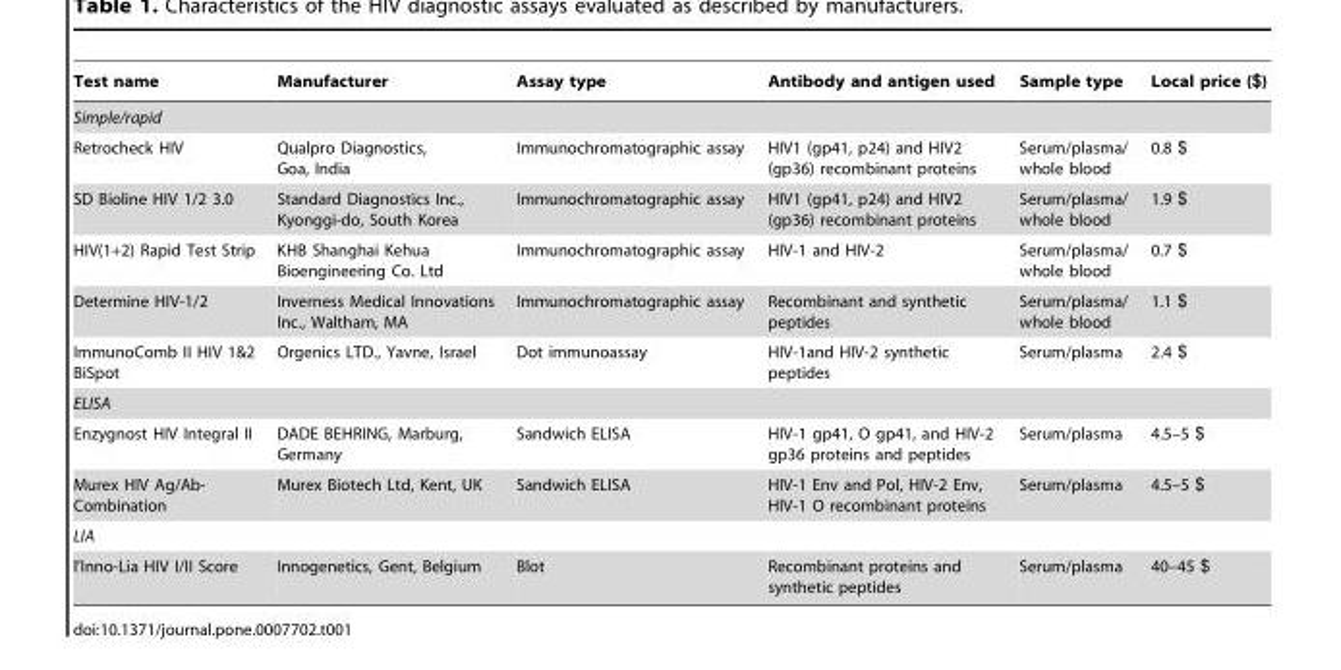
<table><thead><tr><td>Test name</td><td>Manufacturer</td><td>Assay type</td><td>Antibody and antigen used</td><td>Sample type</td><td>Local price ($)</td></tr></thead><tbody><tr><td colspan="6">Simple/rapid</td></tr><tr><td>Retrocheck HIV</td><td>Qualpro Diagnostics, Goa, India</td><td>Immunochromatographic assay</td><td>HIV1 (gp41, p24) and HIV2 (gp36) recombinant proteins</td><td>Serum/plasma/ whole blood</td><td>0.8 $</td></tr><tr><td>SD Bioline HIV 1/2 3.0</td><td>Standard Diagnostics Inc., Kyonggi-do, South Korea</td><td>Immunochromatographic assay</td><td>HIV1 (gp41, p24) and HIV2 (gp36) recombinant proteins</td><td>Serum/plasma/ whole blood</td><td>1.9 $</td></tr><tr><td>HIV(1+2) Rapid Test Strip</td><td>KHB Shanghai Kehua Bioengineering Co. Ltd</td><td>Immunochromatographic assay</td><td>HIV-1 and HIV-2</td><td>Serum/plasma/ whole blood</td><td>0.7 $</td></tr><tr><td>Determine HIV-1/2</td><td>Inverness Medical Innovations Inc., Waltham, MA</td><td>Immunochromatographic assay</td><td>Recombinant and synthetic peptides</td><td>Serum/plasma/ whole blood</td><td>1.1 $</td></tr><tr><td>ImmunoComb II HIV 1&amp;2 BiSpot</td><td>Orgenics LTD., Yavne, Israel</td><td>Dot immunoassay</td><td>HIV-1and HIV-2 synthetic peptides</td><td>Serum/plasma</td><td>2.4 $</td></tr><tr><td colspan="6">ELISA</td></tr><tr><td>Enzygnost HIV Integral II</td><td>DADE BEHRING, Marburg, Germany</td><td>Sandwich ELISA</td><td>HIV-1 gp41, O gp41, and HIV-2 gp36 proteins and peptides</td><td>Serum/plasma</td><td>4.5–5 $</td></tr><tr><td>Murex HIV Ag/Ab- Combination</td><td>Murex Biotech Ltd, Kent, UK</td><td>Sandwich ELISA</td><td>HIV-1 Env and Pol, HIV-2 Env, HIV-1 O recombinant proteins</td><td>Serum/plasma</td><td>4.5–5 $</td></tr><tr><td colspan="6">LIA</td></tr><tr><td>l’Inno-Lia HIV I/II Score</td><td>Innogenetics, Gent, Belgium</td><td>Blot</td><td>Recombinant proteins and synthetic peptides</td><td>Serum/plasma</td><td>40–45 $</td></tr></tbody></table>